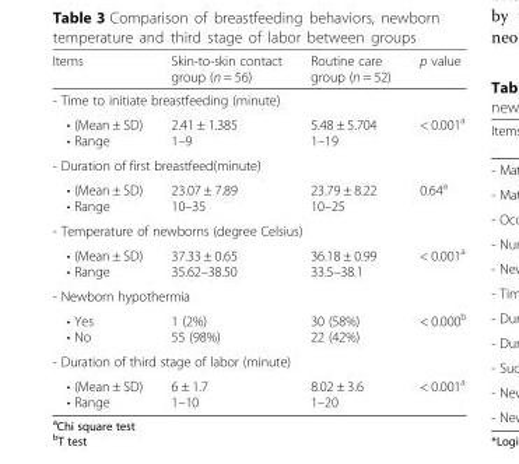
<table><thead><tr><td>Items</td><td>Skin-to-skin contact group (n = 56)</td><td>Routine care group (n = 52)</td><td>p value</td></tr></thead><tbody><tr><td colspan="4">- Time to initiate breastfeeding (minute)</td></tr><tr><td>• (Mean ± SD) • Range</td><td>2.41 ± 1.385 1–9</td><td>5.48 ± 5.704 1–19</td><td>&lt; 0.001<sup>a</sup></td></tr><tr><td colspan="4">- Duration of first breastfeed(minute)</td></tr><tr><td>• (Mean ± SD) • Range</td><td>23.07 ± 7.89 10–35</td><td>23.79 ± 8.22 10–25</td><td>0.64<sup>a</sup></td></tr><tr><td colspan="4">- Temperature of newborns (degree Celsius)</td></tr><tr><td>• (Mean ± SD) • Range</td><td>37.33 ± 0.65 35.62–38.50</td><td>36.18 ± 0.99 33.5–38.1</td><td>&lt; 0.001<sup>a</sup></td></tr><tr><td colspan="4">- Newborn hypothermia</td></tr><tr><td>• Yes • No</td><td>1 (2%) 55 (98%)</td><td>30 (58%) 22 (42%)</td><td>&lt; 0.000<sup>b</sup></td></tr><tr><td colspan="4">- Duration of third stage of labor (minute)</td></tr><tr><td>• (Mean ± SD) • Range</td><td>6 ± 1.7 1–10</td><td>8.02 ± 3.6 1–20</td><td>&lt; 0.001<sup>a</sup></td></tr></tbody></table>